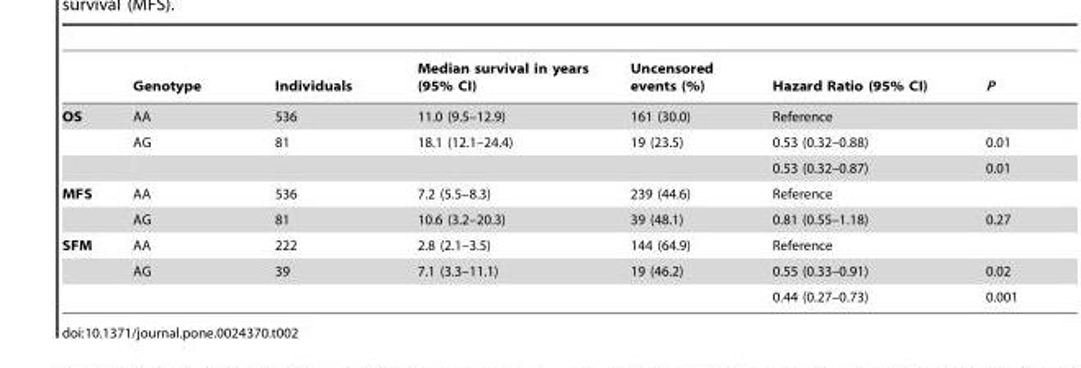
<table><thead><tr><td></td><td>Genotype</td><td>Individuals</td><td>Median survival in years (95% CI)</td><td>Uncensored events (%)</td><td>Hazard Ratio (95% CI)</td><td>P</td></tr></thead><tbody><tr><td rowspan="3">OS</td><td>AA</td><td>536</td><td>11.0 (9.5–12.9)</td><td>161 (30.0)</td><td>Reference</td><td></td></tr><tr><td>AG</td><td>81</td><td>18.1 (12.1–24.4)</td><td>19 (23.5)</td><td>0.53 (0.32–0.88)</td><td>0.01</td></tr><tr><td></td><td></td><td></td><td></td><td>0.53 (0.32–0.87)</td><td>0.01</td></tr><tr><td rowspan="2">MFS</td><td>AA</td><td>536</td><td>7.2 (5.5–8.3)</td><td>239 (44.6)</td><td>Reference</td><td></td></tr><tr><td>AG</td><td>81</td><td>10.6 (3.2–20.3)</td><td>39 (48.1)</td><td>0.81 (0.55–1.18)</td><td>0.27</td></tr><tr><td rowspan="3">SFM</td><td>AA</td><td>222</td><td>2.8 (2.1–3.5)</td><td>144 (64.9)</td><td>Reference</td><td></td></tr><tr><td>AG</td><td>39</td><td>7.1 (3.3–11.1)</td><td>19 (46.2)</td><td>0.55 (0.33–0.91)</td><td>0.02</td></tr><tr><td></td><td></td><td></td><td></td><td>0.44 (0.27–0.73)</td><td>0.001</td></tr></tbody></table>